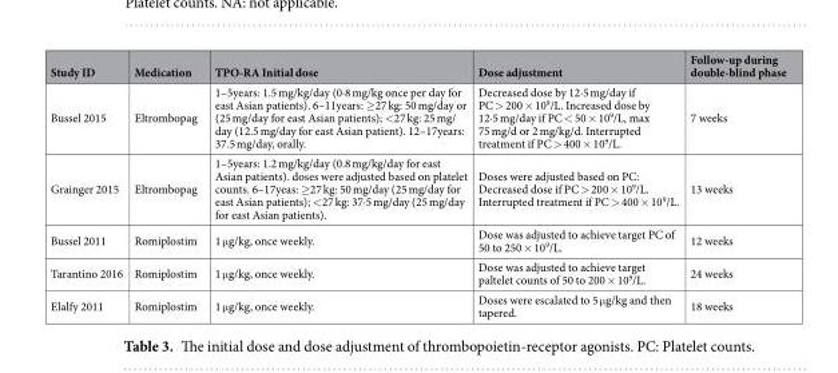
<table><thead><tr><td>Study ID</td><td>Medication</td><td>TPO-RA Initial dose</td><td>Dose adjustment</td><td>Follow-up during double-blind phase</td></tr></thead><tbody><tr><td>Bussel 2015</td><td>Eltrombopag</td><td>1–5years: 1.5 mg/kg/day (0·8 mg/kg once per day for east Asian patients). 6–11years: ≥27 kg: 50 mg/day or (25 mg/day for east Asian patients); &lt;27 kg: 25 mg/ day (12.5 mg/day for east Asian patient). 12–17years: 37.5 mg/day, orally.</td><td>Decreased dose by 12·5 mg/day if PC &gt; 200 × 10<sup>9</sup>/L. Increased dose by 12·5 mg/day if PC &lt; 50 × 10<sup>9</sup>/L, max 75 mg/d or 2 mg/kg/d. Interrupted treatment if PC &gt; 400 × 10<sup>9</sup>/L.</td><td>7 weeks</td></tr><tr><td>Grainger 2015</td><td>Eltrombopag</td><td>1–5years: 1.2 mg/kg/day (0.8 mg/kg/day for east Asian patients). doses were adjusted based on platelet counts. 6–17yeas: ≥27 kg: 50 mg/day (25 mg/day for east Asian patients); &lt;27 kg: 37·5 mg/day (25 mg/day for east Asian patients).</td><td>Doses were adjusted based on PC: Decreased dose if PC &gt; 200 × 10<sup>9</sup>/L. Interrupted treatment if PC &gt; 400 × 10<sup>9</sup>/L.</td><td>13 weeks</td></tr><tr><td>Bussel 2011</td><td>Romiplostim</td><td>1 μg/kg, once weekly.</td><td>Dose was adjusted to achieve target PC of 50 to 250 × 10<sup>9</sup>/L.</td><td>12 weeks</td></tr><tr><td>Tarantino 2016</td><td>Romiplostim</td><td>1 μg/kg, once weekly.</td><td>Dose was adjusted to achieve target paltelet counts of 50 to 200 × 10<sup>9</sup>/L.</td><td>24 weeks</td></tr><tr><td>Elalfy 2011</td><td>Romiplostim</td><td>1 μg/kg, once weekly.</td><td>Doses were escalated to 5 μg/kg and then tapered.</td><td>18 weeks</td></tr></tbody></table>